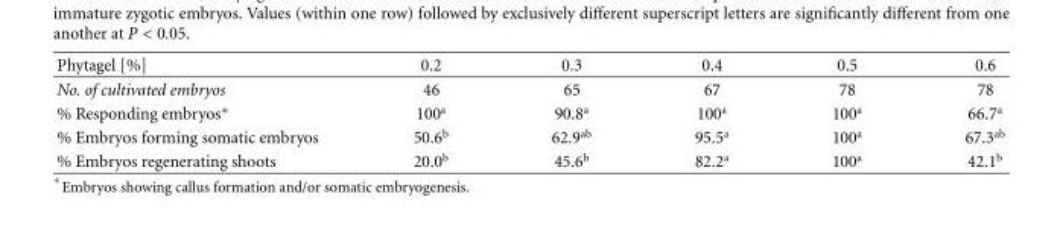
<table><thead><tr><td>Phytagel [%]</td><td>0.2</td><td>0.3</td><td>0.4</td><td>0.5</td><td>0.6</td></tr></thead><tbody><tr><td>No. of cultivated embryos</td><td>46</td><td>65</td><td>67</td><td>78</td><td>78</td></tr><tr><td>% Responding embryos∗</td><td>100<sup>a</sup></td><td>90.8<sup>a</sup></td><td>100<sup>a</sup></td><td>100<sup>a</sup></td><td>66.7<sup>a</sup></td></tr><tr><td>% Embryos forming somatic embryos</td><td>50.6<sup>b</sup></td><td>62.9<sup>ab</sup></td><td>95.5<sup>a</sup></td><td>100<sup>a</sup></td><td>67.3<sup>ab</sup></td></tr><tr><td>% Embryos regenerating shoots</td><td>20.0<sup>b</sup></td><td>45.6<sup>b</sup></td><td>82.2<sup>a</sup></td><td>100<sup>a</sup></td><td>42.1<sup>b</sup></td></tr></tbody></table>